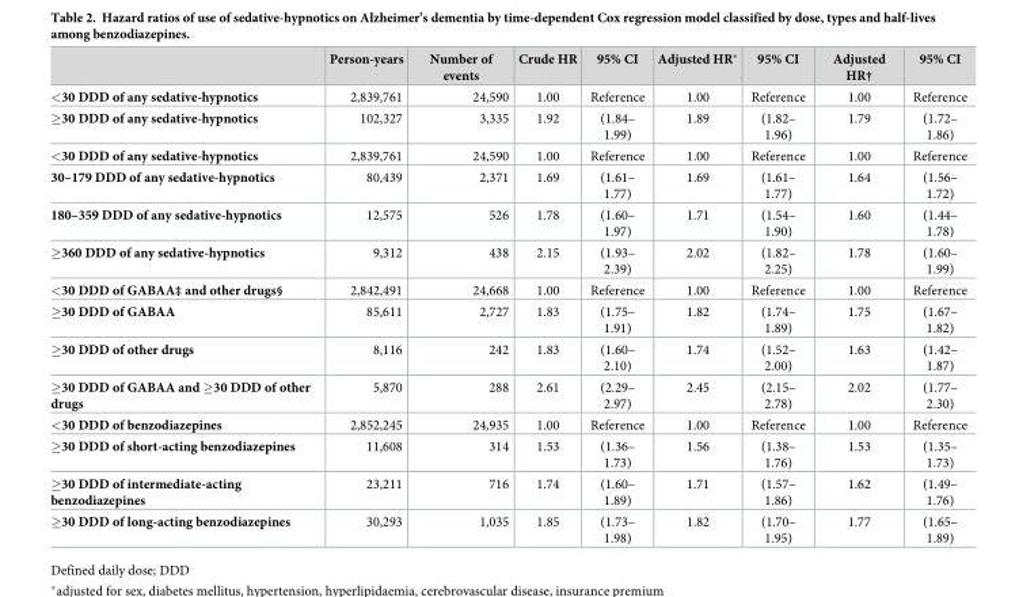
<table><thead><tr><td></td><td>Person-years</td><td>Number of events</td><td>Crude HR</td><td>95% CI</td><td>Adjusted HR*</td><td>95% CI</td><td>Adjusted HR†</td><td>95% CI</td></tr></thead><tbody><tr><td>&lt;30 DDD of any sedative-hypnotics</td><td>2,839,761</td><td>24,590</td><td>1.00</td><td>Reference</td><td>1.00</td><td>Reference</td><td>1.00</td><td>Reference</td></tr><tr><td>≥30 DDD of any sedative-hypnotics</td><td>102,327</td><td>3,335</td><td>1.92</td><td>(1.84– 1.99)</td><td>1.89</td><td>(1.82– 1.96)</td><td>1.79</td><td>(1.72– 1.86)</td></tr><tr><td>&lt;30 DDD of any sedative-hypnotics</td><td>2,839,761</td><td>24,590</td><td>1.00</td><td>Reference</td><td>1.00</td><td>Reference</td><td>1.00</td><td>Reference</td></tr><tr><td>30–179 DDD of any sedative-hypnotics</td><td>80,439</td><td>2,371</td><td>1.69</td><td>(1.61– 1.77)</td><td>1.69</td><td>(1.61– 1.77)</td><td>1.64</td><td>(1.56– 1.72)</td></tr><tr><td>180–359 DDD of any sedative-hypnotics</td><td>12,575</td><td>526</td><td>1.78</td><td>(1.60– 1.97)</td><td>1.71</td><td>(1.54– 1.90)</td><td>1.60</td><td>(1.44– 1.78)</td></tr><tr><td>≥360 DDD of any sedative-hypnotics</td><td>9,312</td><td>438</td><td>2.15</td><td>(1.93– 2.39)</td><td>2.02</td><td>(1.82– 2.25)</td><td>1.78</td><td>(1.60– 1.99)</td></tr><tr><td>&lt;30 DDD of GABAA‡ and other drugs§</td><td>2,842,491</td><td>24,668</td><td>1.00</td><td>Reference</td><td>1.00</td><td>Reference</td><td>1.00</td><td>Reference</td></tr><tr><td>≥30 DDD of GABAA</td><td>85,611</td><td>2,727</td><td>1.83</td><td>(1.75– 1.91)</td><td>1.82</td><td>(1.74– 1.89)</td><td>1.75</td><td>(1.67– 1.82)</td></tr><tr><td>≥30 DDD of other drugs</td><td>8,116</td><td>242</td><td>1.83</td><td>(1.60– 2.10)</td><td>1.74</td><td>(1.52– 2.00)</td><td>1.63</td><td>(1.42– 1.87)</td></tr><tr><td>≥30 DDD of GABAA and ≥30 DDD of other drugs</td><td>5,870</td><td>288</td><td>2.61</td><td>(2.29– 2.97)</td><td>2.45</td><td>(2.15– 2.78)</td><td>2.02</td><td>(1.77– 2.30)</td></tr><tr><td>&lt;30 DDD of benzodiazepines</td><td>2,852,245</td><td>24,935</td><td>1.00</td><td>Reference</td><td>1.00</td><td>Reference</td><td>1.00</td><td>Reference</td></tr><tr><td>≥30 DDD of short-acting benzodiazepines</td><td>11,608</td><td>314</td><td>1.53</td><td>(1.36– 1.73)</td><td>1.56</td><td>(1.38– 1.76)</td><td>1.53</td><td>(1.35– 1.73)</td></tr><tr><td>≥30 DDD of intermediate-acting benzodiazepines</td><td>23,211</td><td>716</td><td>1.74</td><td>(1.60– 1.89)</td><td>1.71</td><td>(1.57– 1.86)</td><td>1.62</td><td>(1.49– 1.76)</td></tr><tr><td>≥30 DDD of long-acting benzodiazepines</td><td>30,293</td><td>1,035</td><td>1.85</td><td>(1.73– 1.98)</td><td>1.82</td><td>(1.70– 1.95)</td><td>1.77</td><td>(1.65– 1.89)</td></tr></tbody></table>